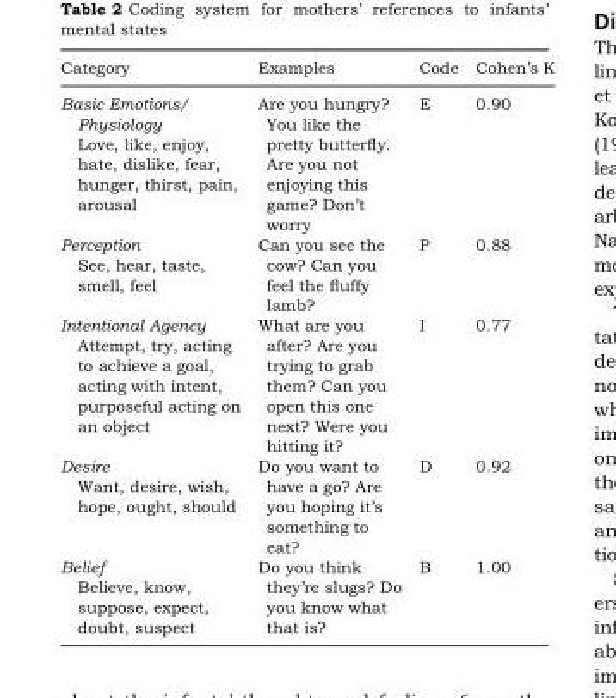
<table><thead><tr><td>Category</td><td>Examples</td><td>Code</td><td>Cohen’s K</td></tr></thead><tbody><tr><td>Basic Emotions/ Physiology Love, like, enjoy, hate, dislike, fear, hunger, thirst, pain, arousal</td><td>Are you hungry? You like the pretty butterfly. Are you not enjoying this game? Don’t worry</td><td>E</td><td>0.90</td></tr><tr><td>Perception See, hear, taste, smell, feel</td><td>Can you see the cow? Can you feel the fluffy lamb?</td><td>P</td><td>0.88</td></tr><tr><td>Intentional Agency Attempt, try, acting to achieve a goal, acting with intent, purposeful acting on an object</td><td>What are you after? Are you trying to grab them? Can you open this one next? Were you hitting it?</td><td>I</td><td>0.77</td></tr><tr><td>Desire Want, desire, wish, hope, ought, should</td><td>Do you want to have a go? Are you hoping it’s something to eat?</td><td>D</td><td>0.92</td></tr><tr><td>Belief Believe, know, suppose, expect, doubt, suspect</td><td>Do you think they’re slugs? Do you know what that is?</td><td>B</td><td>1.00</td></tr></tbody></table>